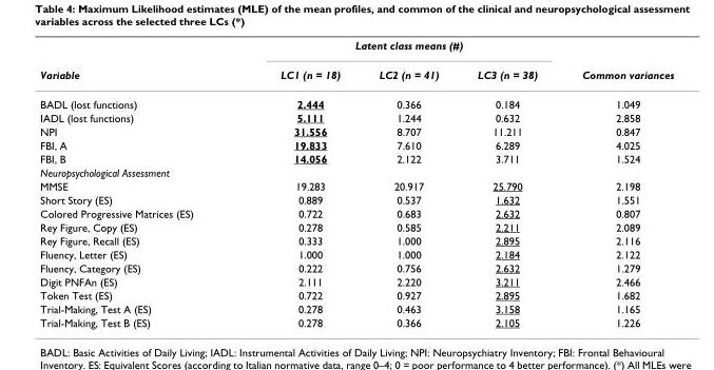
<table><thead><tr><td rowspan="2">Variable</td><td colspan="3">Latent class means (#)</td><td rowspan="2">Common variances</td></tr><tr><td>LC1 (n = 18)</td><td>LC2 (n = 41)</td><td>LC3 (n = 38)</td></tr></thead><tbody><tr><td>BADL (lost functions)</td><td>2.444</td><td>0.366</td><td>0.184</td><td>1.049</td></tr><tr><td>IADL (lost functions)</td><td>5.111</td><td>1.244</td><td>0.632</td><td>2.858</td></tr><tr><td>NPI</td><td>31.556</td><td>8.707</td><td>11.211</td><td>0.847</td></tr><tr><td>FBI, A</td><td>19.833</td><td>7.610</td><td>6.289</td><td>4.025</td></tr><tr><td>FBI, B</td><td>14.056</td><td>2.122</td><td>3.711</td><td>1.524</td></tr><tr><td colspan="5">Neuropsychological Assessment</td></tr><tr><td>MMSE</td><td>19.283</td><td>20.917</td><td>25.790</td><td>2.198</td></tr><tr><td>Short Story (ES)</td><td>0.889</td><td>0.537</td><td>1.632</td><td>1.551</td></tr><tr><td>Colored Progressive Matrices (ES)</td><td>0.722</td><td>0.683</td><td>2.632</td><td>0.807</td></tr><tr><td>Rey Figure, Copy (ES)</td><td>0.278</td><td>0.585</td><td>2.211</td><td>2.089</td></tr><tr><td>Rey Figure, Recall (ES)</td><td>0.333</td><td>1.000</td><td>2.895</td><td>2.116</td></tr><tr><td>Fluency, Letter (ES)</td><td>1.000</td><td>1.000</td><td>2.184</td><td>2.122</td></tr><tr><td>Fluency, Category (ES)</td><td>0.222</td><td>0.756</td><td>2.632</td><td>1.279</td></tr><tr><td>Digit PNFAn (ES)</td><td>2.111</td><td>2.220</td><td>3.211</td><td>2.466</td></tr><tr><td>Token Test (ES)</td><td>0.722</td><td>0.927</td><td>2.895</td><td>1.682</td></tr><tr><td>Trial-Making, Test A (ES)</td><td>0.278</td><td>0.463</td><td>3.158</td><td>1.165</td></tr><tr><td>Trial-Making, Test B (ES)</td><td>0.278</td><td>0.366</td><td>2.105</td><td>1.226</td></tr></tbody></table>